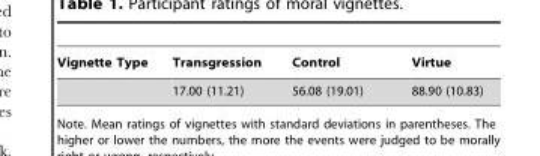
<table><thead><tr><td>Vignette Type</td><td>Transgression</td><td>Control</td><td>Virtue</td></tr></thead><tbody><tr><td></td><td>17.00 (11.21)</td><td>56.08 (19.01)</td><td>88.90 (10.83)</td></tr></tbody></table>